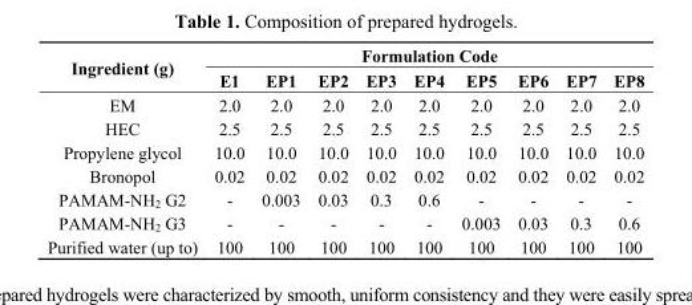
<table><thead><tr><td rowspan="2">Ingredient (g)</td><td colspan="9">Formulation Code</td></tr><tr><td>E1</td><td>EP1</td><td>EP2</td><td>EP3</td><td>EP4</td><td>EP5</td><td>EP6</td><td>EP7</td><td>EP8</td></tr></thead><tbody><tr><td>EM</td><td>2.0</td><td>2.0</td><td>2.0</td><td>2.0</td><td>2.0</td><td>2.0</td><td>2.0</td><td>2.0</td><td>2.0</td></tr><tr><td>HEC</td><td>2.5</td><td>2.5</td><td>2.5</td><td>2.5</td><td>2.5</td><td>2.5</td><td>2.5</td><td>2.5</td><td>2.5</td></tr><tr><td>Propylene glycol</td><td>10.0</td><td>10.0</td><td>10.0</td><td>10.0</td><td>10.0</td><td>10.0</td><td>10.0</td><td>10.0</td><td>10.0</td></tr><tr><td>Bronopol</td><td>0.02</td><td>0.02</td><td>0.02</td><td>0.02</td><td>0.02</td><td>0.02</td><td>0.02</td><td>0.02</td><td>0.02</td></tr><tr><td>PAMAM-NH<sub>2</sub> G2</td><td>-</td><td>0.003</td><td>0.03</td><td>0.3</td><td>0.6</td><td>-</td><td>-</td><td>-</td><td>-</td></tr><tr><td>PAMAM-NH<sub>2</sub> G3</td><td>-</td><td>-</td><td>-</td><td>-</td><td>-</td><td>0.003</td><td>0.03</td><td>0.3</td><td>0.6</td></tr><tr><td>Purified water (up to)</td><td>100</td><td>100</td><td>100</td><td>100</td><td>100</td><td>100</td><td>100</td><td>100</td><td>100</td></tr></tbody></table>